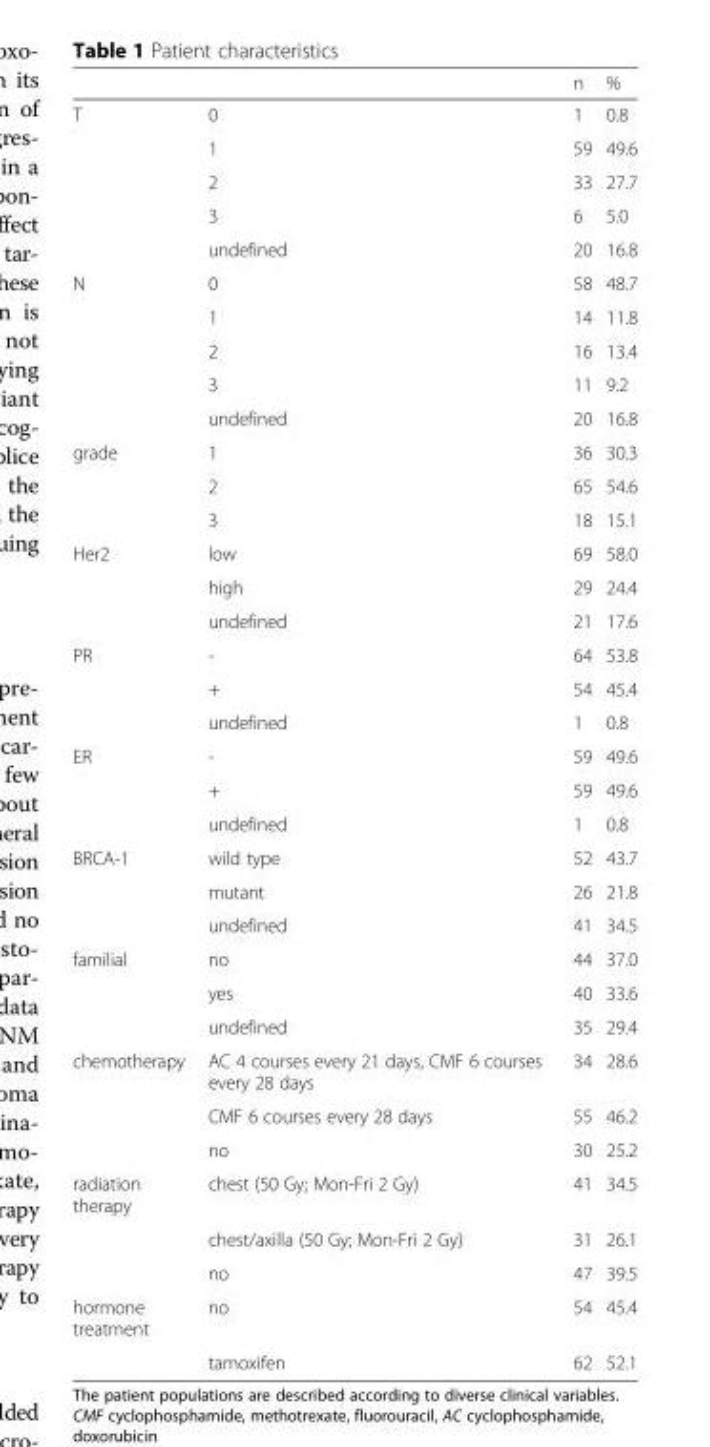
<table><thead><tr><td></td><td></td><td>n</td><td>%</td></tr></thead><tbody><tr><td rowspan="5">T</td><td>0</td><td>1</td><td>0.8</td></tr><tr><td>1</td><td>59</td><td>49.6</td></tr><tr><td>2</td><td>33</td><td>27.7</td></tr><tr><td>3</td><td>6</td><td>5.0</td></tr><tr><td>undefined</td><td>20</td><td>16.8</td></tr><tr><td rowspan="5">N</td><td>0</td><td>58</td><td>48.7</td></tr><tr><td>1</td><td>14</td><td>11.8</td></tr><tr><td>2</td><td>16</td><td>13.4</td></tr><tr><td>3</td><td>11</td><td>9.2</td></tr><tr><td>undefined</td><td>20</td><td>16.8</td></tr><tr><td rowspan="3">grade</td><td>1</td><td>36</td><td>30.3</td></tr><tr><td>2</td><td>65</td><td>54.6</td></tr><tr><td>3</td><td>18</td><td>15.1</td></tr><tr><td rowspan="3">Her2</td><td>low</td><td>69</td><td>58.0</td></tr><tr><td>high</td><td>29</td><td>24.4</td></tr><tr><td>undefined</td><td>21</td><td>17.6</td></tr><tr><td rowspan="3">PR</td><td>-</td><td>64</td><td>53.8</td></tr><tr><td>+</td><td>54</td><td>45.4</td></tr><tr><td>undefined</td><td>1</td><td>0.8</td></tr><tr><td rowspan="3">ER</td><td>-</td><td>59</td><td>49.6</td></tr><tr><td>+</td><td>59</td><td>49.6</td></tr><tr><td>undefined</td><td>1</td><td>0.8</td></tr><tr><td rowspan="3">BRCA-1</td><td>wild type</td><td>52</td><td>43.7</td></tr><tr><td>mutant</td><td>26</td><td>21.8</td></tr><tr><td>undefined</td><td>41</td><td>34.5</td></tr><tr><td rowspan="3">familial</td><td>no</td><td>44</td><td>37.0</td></tr><tr><td>yes</td><td>40</td><td>33.6</td></tr><tr><td>undefined</td><td>35</td><td>29.4</td></tr><tr><td rowspan="3">chemotherapy</td><td>AC 4 courses every 21 days, CMF 6 courses every 28 days</td><td>34</td><td>28.6</td></tr><tr><td>CMF 6 courses every 28 days</td><td>55</td><td>46.2</td></tr><tr><td>no</td><td>30</td><td>25.2</td></tr><tr><td rowspan="3">radiation therapy</td><td>chest (50 Gy; Mon-Fri 2 Gy)</td><td>41</td><td>34.5</td></tr><tr><td>chest/axilla (50 Gy; Mon-Fri 2 Gy)</td><td>31</td><td>26.1</td></tr><tr><td>no</td><td>47</td><td>39.5</td></tr><tr><td rowspan="2">hormone treatment</td><td>no</td><td>54</td><td>45.4</td></tr><tr><td>tamoxifen</td><td>62</td><td>52.1</td></tr></tbody></table>